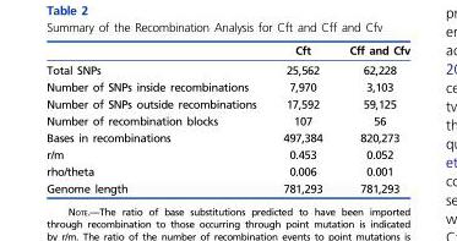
<table><thead><tr><td></td><td>Cft</td><td>Cff and Cfv</td></tr></thead><tbody><tr><td>Total SNPs</td><td>25,562</td><td>62,228</td></tr><tr><td>Number of SNPs inside recombinations</td><td>7,970</td><td>3,103</td></tr><tr><td>Number of SNPs outside recombinations</td><td>17,592</td><td>59,125</td></tr><tr><td>Number of recombination blocks</td><td>107</td><td>56</td></tr><tr><td>Bases in recombinations</td><td>497,384</td><td>820,273</td></tr><tr><td>r/m</td><td>0.453</td><td>0.052</td></tr><tr><td>rho/theta</td><td>0.006</td><td>0.001</td></tr><tr><td>Genome length</td><td>781,293</td><td>781,293</td></tr></tbody></table>